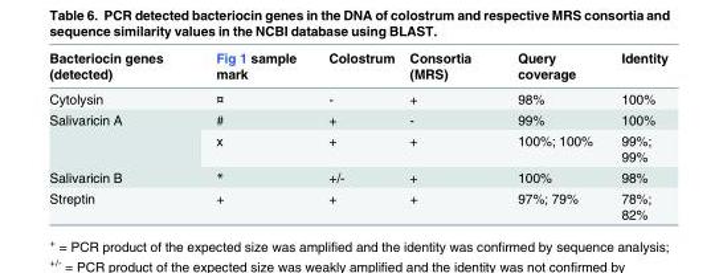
<table><thead><tr><td>Bacteriocin genes (detected)</td><td>Fig 1 sample mark</td><td>Colostrum</td><td>Consortia (MRS)</td><td>Query coverage</td><td>Identity</td></tr></thead><tbody><tr><td>Cytolysin</td><td>¤</td><td>-</td><td>+</td><td>98%</td><td>100%</td></tr><tr><td rowspan="2">Salivaricin A</td><td>#</td><td>+</td><td>-</td><td>99%</td><td>100%</td></tr><tr><td>x</td><td>+</td><td>+</td><td>100%; 100%</td><td>99%; 99%</td></tr><tr><td>Salivaricin B</td><td>*</td><td>+/-</td><td>+</td><td>100%</td><td>98%</td></tr><tr><td>Streptin</td><td>+</td><td>+</td><td>+</td><td>97%; 79%</td><td>78%; 82%</td></tr></tbody></table>